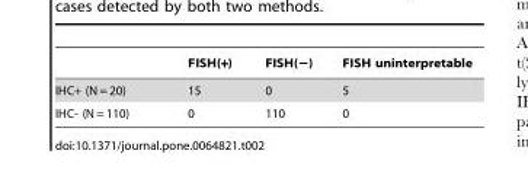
<table><thead><tr><td></td><td>FISH(+)</td><td>FISH(−)</td><td>FISH uninterpretable</td></tr></thead><tbody><tr><td>IHC+ (N = 20)</td><td>15</td><td>0</td><td>5</td></tr><tr><td>IHC- (N = 110)</td><td>0</td><td>110</td><td>0</td></tr></tbody></table>